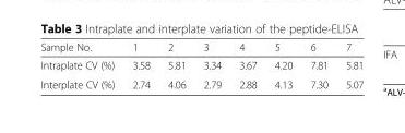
<table><thead><tr><td>Sample No.</td><td>1</td><td>2</td><td>3</td><td>4</td><td>5</td><td>6</td><td>7</td></tr></thead><tbody><tr><td>Intraplate CV (%)</td><td>3.58</td><td>5.81</td><td>3.34</td><td>3.67</td><td>4.20</td><td>7.81</td><td>5.81</td></tr><tr><td>Interplate CV (%)</td><td>2.74</td><td>4.06</td><td>2.79</td><td>2.88</td><td>4.13</td><td>7.30</td><td>5.07</td></tr></tbody></table>